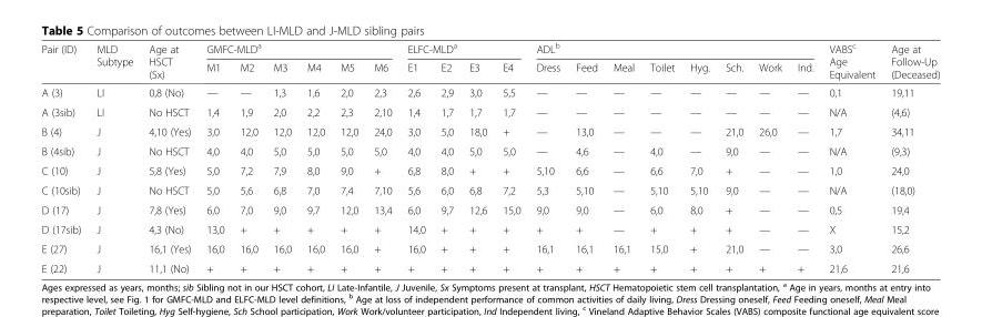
<table><thead><tr><td rowspan="2">Pair (ID)</td><td rowspan="2">MLD Subtype</td><td rowspan="2">Age at HSCT (Sx)</td><td colspan="6">GMFC-MLD<sup>a</sup></td><td colspan="4">ELFC-MLD<sup>a</sup></td><td colspan="8">ADL<sup>b</sup></td><td rowspan="2">VABS<sup>c</sup> Age Equivalent</td><td rowspan="2">Age at Follow-Up (Deceased)</td></tr><tr><td>M1</td><td>M2</td><td>M3</td><td>M4</td><td>M5</td><td>M6</td><td>E1</td><td>E2</td><td>E3</td><td>E4</td><td>Dress</td><td>Feed</td><td>Meal</td><td>Toilet</td><td>Hyg.</td><td>Sch.</td><td>Work</td><td>Ind.</td></tr></thead><tbody><tr><td>A (3)</td><td>LI</td><td>0,8 (No)</td><td>—</td><td>—</td><td>1,3</td><td>1,6</td><td>2,0</td><td>2,3</td><td>2,6</td><td>2,9</td><td>3,0</td><td>5,5</td><td>—</td><td>—</td><td>—</td><td>—</td><td>—</td><td>—</td><td>—</td><td>—</td><td>0,1</td><td>19,11</td></tr><tr><td>A (3sib)</td><td>LI</td><td>No HSCT</td><td>1,4</td><td>1,9</td><td>2,0</td><td>2,2</td><td>2,3</td><td>2,10</td><td>1,4</td><td>1,7</td><td>1,7</td><td>1,7</td><td>—</td><td>—</td><td>—</td><td>—</td><td>—</td><td>—</td><td>—</td><td>—</td><td>N/A</td><td>(4,6)</td></tr><tr><td>B (4)</td><td>J</td><td>4,10 (Yes)</td><td>3,0</td><td>12,0</td><td>12,0</td><td>12,0</td><td>12,0</td><td>24,0</td><td>3,0</td><td>5,0</td><td>18,0</td><td>+</td><td>—</td><td>13,0</td><td>—</td><td>—</td><td>—</td><td>21,0</td><td>26,0</td><td>—</td><td>1,7</td><td>34,11</td></tr><tr><td>B (4sib)</td><td>J</td><td>No HSCT</td><td>4,0</td><td>4,0</td><td>5,0</td><td>5,0</td><td>5,0</td><td>5,0</td><td>4,0</td><td>4,0</td><td>5,0</td><td>5,0</td><td>—</td><td>4,6</td><td>—</td><td>4,0</td><td>—</td><td>9,0</td><td>—</td><td>—</td><td>N/A</td><td>(9,3)</td></tr><tr><td>C (10)</td><td>J</td><td>5,8 (Yes)</td><td>5,0</td><td>7,2</td><td>7,9</td><td>8,0</td><td>9,0</td><td>+</td><td>6,8</td><td>8,0</td><td>+</td><td>+</td><td>5,10</td><td>6,6</td><td>—</td><td>6,6</td><td>7,0</td><td>+</td><td>—</td><td>—</td><td>1,0</td><td>24,0</td></tr><tr><td>C (10sib)</td><td>J</td><td>No HSCT</td><td>5,0</td><td>5,6</td><td>6,8</td><td>7,0</td><td>7,4</td><td>7,10</td><td>5,6</td><td>6,0</td><td>6,8</td><td>7,2</td><td>5,3</td><td>5,10</td><td>—</td><td>5,10</td><td>5,10</td><td>9,0</td><td>—</td><td>—</td><td>N/A</td><td>(18,0)</td></tr><tr><td>D (17)</td><td>J</td><td>7,8 (Yes)</td><td>6,0</td><td>7,0</td><td>9,0</td><td>9,7</td><td>12,0</td><td>13,4</td><td>6,0</td><td>9,7</td><td>12,6</td><td>15,0</td><td>9,0</td><td>9,0</td><td>—</td><td>6,0</td><td>8,0</td><td>+</td><td>—</td><td>—</td><td>0,5</td><td>19,4</td></tr><tr><td>D (17sib)</td><td>J</td><td>4,3 (No)</td><td>13,0</td><td>+</td><td>+</td><td>+</td><td>+</td><td>+</td><td>14,0</td><td>+</td><td>+</td><td>+</td><td>+</td><td>+</td><td>—</td><td>+</td><td>+</td><td>+</td><td>—</td><td>—</td><td>X</td><td>15,2</td></tr><tr><td>E (27)</td><td>J</td><td>16,1 (Yes)</td><td>16,0</td><td>16,0</td><td>16,0</td><td>16,0</td><td>16,0</td><td>+</td><td>16,0</td><td>+</td><td>+</td><td>+</td><td>16,1</td><td>16,1</td><td>16,1</td><td>15,0</td><td>+</td><td>21,0</td><td>—</td><td>—</td><td>3,0</td><td>26,6</td></tr><tr><td>E (22)</td><td>J</td><td>11,1 (No)</td><td>+</td><td>+</td><td>+</td><td>+</td><td>+</td><td>+</td><td>+</td><td>+</td><td>+</td><td>+</td><td>+</td><td>+</td><td>+</td><td>+</td><td>+</td><td>+</td><td>+</td><td>+</td><td>21,6</td><td>21,6</td></tr></tbody></table>